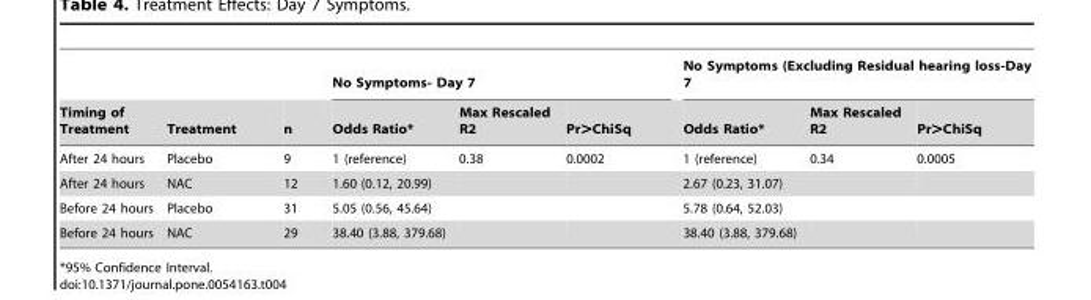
<table><thead><tr><td rowspan="2">Timing of Treatment</td><td rowspan="2">Treatment</td><td rowspan="2">n</td><td colspan="3">No Symptoms- Day 7</td><td colspan="3">No Symptoms (Excluding Residual hearing loss-Day 7</td></tr><tr><td>Odds Ratio*</td><td>Max Rescaled R2</td><td>Pr&gt;ChiSq</td><td>Odds Ratio*</td><td>Max Rescaled R2</td><td>Pr&gt;ChiSq</td></tr></thead><tbody><tr><td>After 24 hours</td><td>Placebo</td><td>9</td><td>1 (reference)</td><td>0.38</td><td>0.0002</td><td>1 (reference)</td><td>0.34</td><td>0.0005</td></tr><tr><td>After 24 hours</td><td>NAC</td><td>12</td><td>1.60 (0.12, 20.99)</td><td></td><td></td><td>2.67 (0.23, 31.07)</td><td></td><td></td></tr><tr><td>Before 24 hours</td><td>Placebo</td><td>31</td><td>5.05 (0.56, 45.64)</td><td></td><td></td><td>5.78 (0.64, 52.03)</td><td></td><td></td></tr><tr><td>Before 24 hours</td><td>NAC</td><td>29</td><td>38.40 (3.88, 379.68)</td><td></td><td></td><td>38.40 (3.88, 379.68)</td><td></td><td></td></tr></tbody></table>